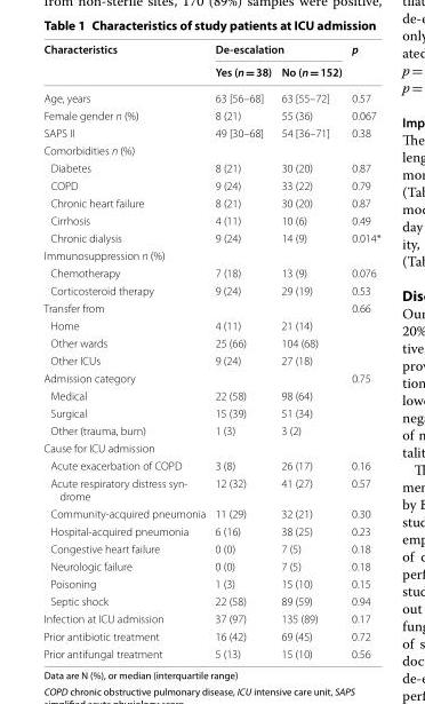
<table><thead><tr><td rowspan="2">Characteristics</td><td colspan="2">De‑escalation</td><td rowspan="2">p</td></tr><tr><td>Yes (n = 38)</td><td>No (n = 152)</td></tr></thead><tbody><tr><td>Age, years</td><td>63 [56–68]</td><td>63 [55–72]</td><td>0.57</td></tr><tr><td>Female gender n (%)</td><td>8 (21)</td><td>55 (36)</td><td>0.067</td></tr><tr><td>SAPS II</td><td>49 [30–68]</td><td>54 [36–71]</td><td>0.38</td></tr><tr><td colspan="4">Comorbidities n (%)</td></tr><tr><td>Diabetes</td><td>8 (21)</td><td>30 (20)</td><td>0.87</td></tr><tr><td>COPD</td><td>9 (24)</td><td>33 (22)</td><td>0.79</td></tr><tr><td>Chronic heart failure</td><td>8 (21)</td><td>30 (20)</td><td>0.87</td></tr><tr><td>Cirrhosis</td><td>4 (11)</td><td>10 (6)</td><td>0.49</td></tr><tr><td>Chronic dialysis</td><td>9 (24)</td><td>14 (9)</td><td>0.014*</td></tr><tr><td colspan="4">Immunosuppression n (%)</td></tr><tr><td>Chemotherapy</td><td>7 (18)</td><td>13 (9)</td><td>0.076</td></tr><tr><td>Corticosteroid therapy</td><td>9 (24)</td><td>29 (19)</td><td>0.53</td></tr><tr><td>Transfer from</td><td></td><td></td><td>0.66</td></tr><tr><td>Home</td><td>4 (11)</td><td>21 (14)</td><td></td></tr><tr><td>Other wards</td><td>25 (66)</td><td>104 (68)</td><td></td></tr><tr><td>Other ICUs</td><td>9 (24)</td><td>27 (18)</td><td></td></tr><tr><td>Admission category</td><td></td><td></td><td>0.75</td></tr><tr><td>Medical</td><td>22 (58)</td><td>98 (64)</td><td></td></tr><tr><td>Surgical</td><td>15 (39)</td><td>51 (34)</td><td></td></tr><tr><td>Other (trauma, burn)</td><td>1 (3)</td><td>3 (2)</td><td></td></tr><tr><td colspan="4">Cause for ICU admission</td></tr><tr><td>Acute exacerbation of COPD</td><td>3 (8)</td><td>26 (17)</td><td>0.16</td></tr><tr><td>Acute respiratory distress syn- drome</td><td>12 (32)</td><td>41 (27)</td><td>0.57</td></tr><tr><td>Community-acquired pneumonia</td><td>11 (29)</td><td>32 (21)</td><td>0.30</td></tr><tr><td>Hospital-acquired pneumonia</td><td>6 (16)</td><td>38 (25)</td><td>0.23</td></tr><tr><td>Congestive heart failure</td><td>0 (0)</td><td>7 (5)</td><td>0.18</td></tr><tr><td>Neurologic failure</td><td>0 (0)</td><td>7 (5)</td><td>0.18</td></tr><tr><td>Poisoning</td><td>1 (3)</td><td>15 (10)</td><td>0.15</td></tr><tr><td>Septic shock</td><td>22 (58)</td><td>89 (59)</td><td>0.94</td></tr><tr><td>Infection at ICU admission</td><td>37 (97)</td><td>135 (89)</td><td>0.17</td></tr><tr><td>Prior antibiotic treatment</td><td>16 (42)</td><td>69 (45)</td><td>0.72</td></tr><tr><td>Prior antifungal treatment</td><td>5 (13)</td><td>15 (10)</td><td>0.56</td></tr></tbody></table>